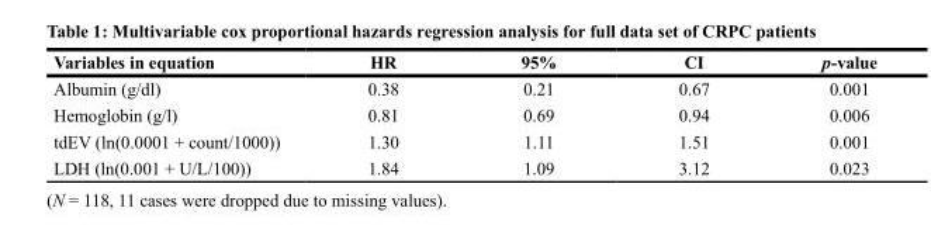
<table><thead><tr><td>Variables in equation</td><td>HR</td><td>95%</td><td>CI</td><td>p-value</td></tr></thead><tbody><tr><td>Albumin (g/dl)</td><td>0.38</td><td>0.21</td><td>0.67</td><td>0.001</td></tr><tr><td>Hemoglobin (g/l)</td><td>0.81</td><td>0.69</td><td>0.94</td><td>0.006</td></tr><tr><td>tdEV (ln(0.0001 + count/1000))</td><td>1.30</td><td>1.11</td><td>1.51</td><td>0.001</td></tr><tr><td>LDH (ln(0.001 + U/L/100))</td><td>1.84</td><td>1.09</td><td>3.12</td><td>0.023</td></tr></tbody></table>